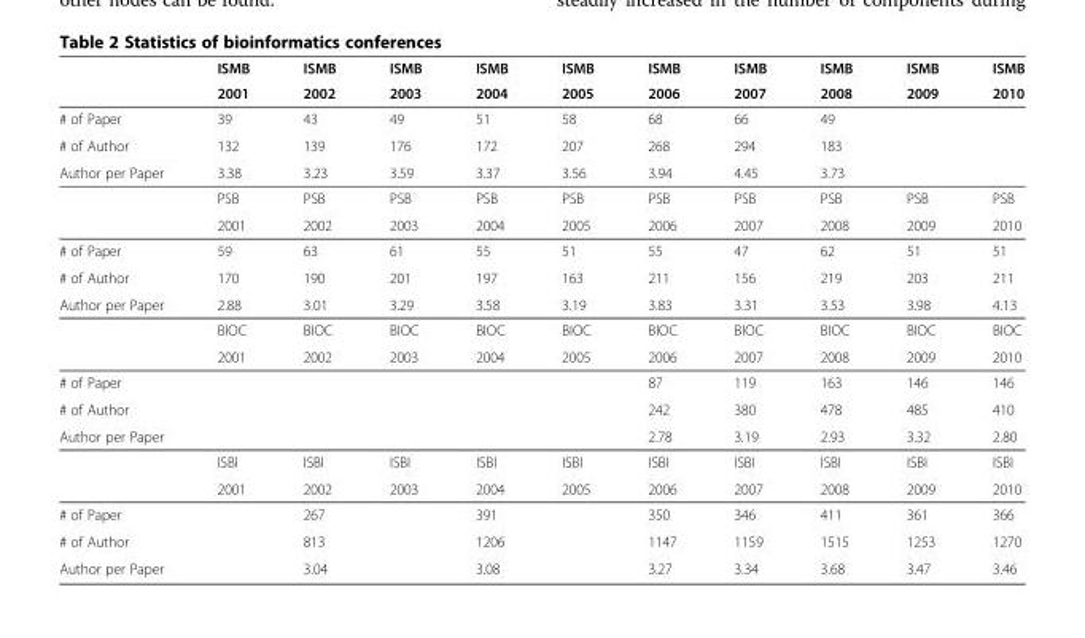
<table><thead><tr><td rowspan="2"></td><td rowspan="2">ISMB 2001</td><td rowspan="2">ISMB 2002</td><td rowspan="2">ISMB 2003</td><td rowspan="2">ISMB 2004</td><td rowspan="2">ISMB 2005</td><td rowspan="2">ISMB 2006</td><td rowspan="2">ISMB 2007</td><td rowspan="2">ISMB 2008</td><td rowspan="2">ISMB 2009</td><td rowspan="2">ISMB 2010</td></tr><tr></tr></thead><tbody><tr><td># of Paper</td><td>39</td><td>43</td><td>49</td><td>51</td><td>58</td><td>68</td><td>66</td><td>49</td><td></td><td></td></tr><tr><td># of Author</td><td>132</td><td>139</td><td>176</td><td>172</td><td>207</td><td>268</td><td>294</td><td>183</td><td></td><td></td></tr><tr><td rowspan="3">Author per Paper</td><td>3.38</td><td>3.23</td><td>3.59</td><td>3.37</td><td>3.56</td><td>3.94</td><td>4.45</td><td>3.73</td><td></td><td></td></tr><tr><td>PSB</td><td>PSB</td><td>PSB</td><td>PSB</td><td>PSB</td><td>PSB</td><td>PSB</td><td>PSB</td><td>PSB</td><td>PSB</td></tr><tr><td>2001</td><td>2002</td><td>2003</td><td>2004</td><td>2005</td><td>2006</td><td>2007</td><td>2008</td><td>2009</td><td>2010</td></tr><tr><td># of Paper</td><td>59</td><td>63</td><td>61</td><td>55</td><td>51</td><td>55</td><td>47</td><td>62</td><td>51</td><td>51</td></tr><tr><td># of Author</td><td>170</td><td>190</td><td>201</td><td>197</td><td>163</td><td>211</td><td>156</td><td>219</td><td>203</td><td>211</td></tr><tr><td rowspan="3">Author per Paper</td><td>2.88</td><td>3.01</td><td>3.29</td><td>3.58</td><td>3.19</td><td>3.83</td><td>3.31</td><td>3.53</td><td>3.98</td><td>4.13</td></tr><tr><td>BIOC</td><td>BIOC</td><td>BIOC</td><td>BIOC</td><td>BIOC</td><td>BIOC</td><td>BIOC</td><td>BIOC</td><td>BIOC</td><td>BIOC</td></tr><tr><td>2001</td><td>2002</td><td>2003</td><td>2004</td><td>2005</td><td>2006</td><td>2007</td><td>2008</td><td>2009</td><td>2010</td></tr><tr><td># of Paper</td><td></td><td></td><td></td><td></td><td></td><td>87</td><td>119</td><td>163</td><td>146</td><td>146</td></tr><tr><td># of Author</td><td></td><td></td><td></td><td></td><td></td><td>242</td><td>380</td><td>478</td><td>485</td><td>410</td></tr><tr><td rowspan="3">Author per Paper</td><td></td><td></td><td></td><td></td><td></td><td>2.78</td><td>3.19</td><td>2.93</td><td>3.32</td><td>2.80</td></tr><tr><td>ISBI</td><td>ISBI</td><td>ISBI</td><td>ISBI</td><td>ISBI</td><td>ISBI</td><td>ISBI</td><td>ISBI</td><td>ISBI</td><td>ISBI</td></tr><tr><td>2001</td><td>2002</td><td>2003</td><td>2004</td><td>2005</td><td>2006</td><td>2007</td><td>2008</td><td>2009</td><td>2010</td></tr><tr><td># of Paper</td><td></td><td>267</td><td></td><td>391</td><td></td><td>350</td><td>346</td><td>411</td><td>361</td><td>366</td></tr><tr><td># of Author</td><td></td><td>813</td><td></td><td>1206</td><td></td><td>1147</td><td>1159</td><td>1515</td><td>1253</td><td>1270</td></tr><tr><td>Author per Paper</td><td></td><td>3.04</td><td></td><td>3.08</td><td></td><td>3.27</td><td>3.34</td><td>3.68</td><td>3.47</td><td>3.46</td></tr></tbody></table>